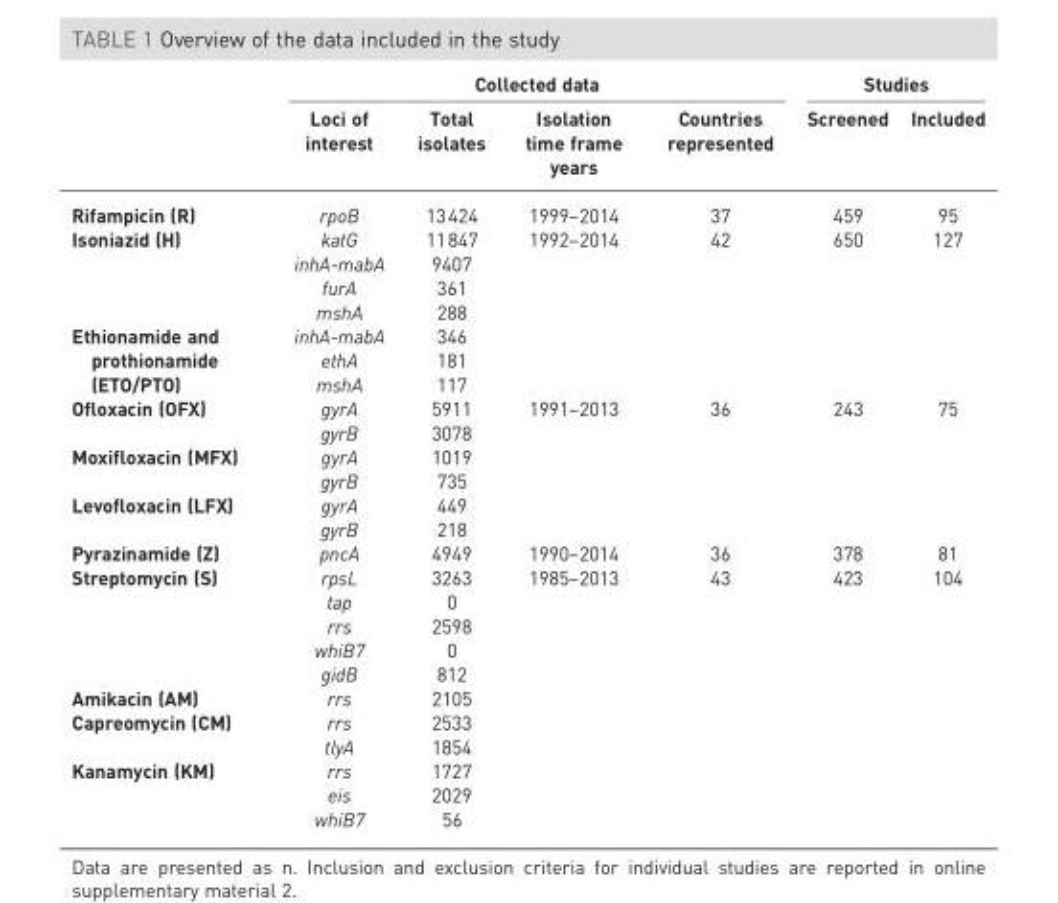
<table><thead><tr><td rowspan="2"></td><td colspan="4">Collected data</td><td colspan="2">Studies</td></tr><tr><td>Loci of interest</td><td>Total isolates</td><td>Isolation time frame years</td><td>Countries represented</td><td>Screened</td><td>Included</td></tr></thead><tbody><tr><td>Rifampicin (R)</td><td>rpoB</td><td>13424</td><td>1999–2014</td><td>37</td><td>459</td><td>95</td></tr><tr><td rowspan="4">Isoniazid (H)</td><td>katG</td><td>11847</td><td rowspan="7">1992–2014</td><td rowspan="7">42</td><td rowspan="7">650</td><td rowspan="7">127</td></tr><tr><td>inhA-mabA</td><td>9407</td></tr><tr><td>furA</td><td>361</td></tr><tr><td>mshA</td><td>288</td></tr><tr><td rowspan="3">Ethionamide and prothionamide (ETO/PTO)</td><td>inhA-mabA</td><td>346</td></tr><tr><td>ethA</td><td>181</td></tr><tr><td>mshA</td><td>117</td></tr><tr><td rowspan="2">Ofloxacin (OFX)</td><td>gyrA</td><td>5911</td><td rowspan="6">1991–2013</td><td rowspan="6">36</td><td rowspan="6">243</td><td rowspan="6">75</td></tr><tr><td>gyrB</td><td>3078</td></tr><tr><td rowspan="2">Moxifloxacin (MFX)</td><td>gyrA</td><td>1019</td></tr><tr><td>gyrB</td><td>735</td></tr><tr><td rowspan="2">Levofloxacin (LFX)</td><td>gyrA</td><td>449</td></tr><tr><td>gyrB</td><td>218</td></tr><tr><td>Pyrazinamide (Z)</td><td>pncA</td><td>4949</td><td>1990–2014</td><td>36</td><td>378</td><td>81</td></tr><tr><td rowspan="5">Streptomycin (S)</td><td>rpsL</td><td>3263</td><td rowspan="11">1985–2013</td><td rowspan="11">43</td><td rowspan="11">423</td><td rowspan="11">104</td></tr><tr><td>tap</td><td>0</td></tr><tr><td>rrs</td><td>2598</td></tr><tr><td>whiB7</td><td>0</td></tr><tr><td>gidB</td><td>812</td></tr><tr><td>Amikacin (AM)</td><td>rrs</td><td>2105</td></tr><tr><td rowspan="2">Capreomycin (CM)</td><td>rrs</td><td>2533</td></tr><tr><td>tlyA</td><td>1854</td></tr><tr><td rowspan="3">Kanamycin (KM)</td><td>rrs</td><td>1727</td></tr><tr><td>eis</td><td>2029</td></tr><tr><td>whiB7</td><td>56</td></tr></tbody></table>